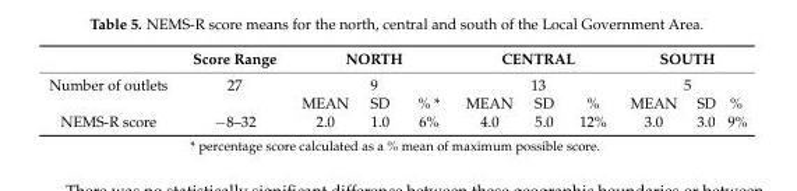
<table><thead><tr><td rowspan="3">Number of outlets</td><td rowspan="3">Score Range 27</td><td rowspan="2" colspan="3">NORTH 9</td><td rowspan="2" colspan="3">CENTRAL 13</td><td rowspan="2" colspan="3">SOUTH 5</td></tr><tr></tr><tr><td>MEAN</td><td>SD</td><td>% *</td><td>MEAN</td><td>SD</td><td>%</td><td>MEAN</td><td>SD</td><td>%</td></tr></thead><tbody><tr><td>NEMS-R score</td><td>−8–32</td><td>2.0</td><td>1.0</td><td>6%</td><td>4.0</td><td>5.0</td><td>12%</td><td>3.0</td><td>3.0</td><td>9%</td></tr></tbody></table>